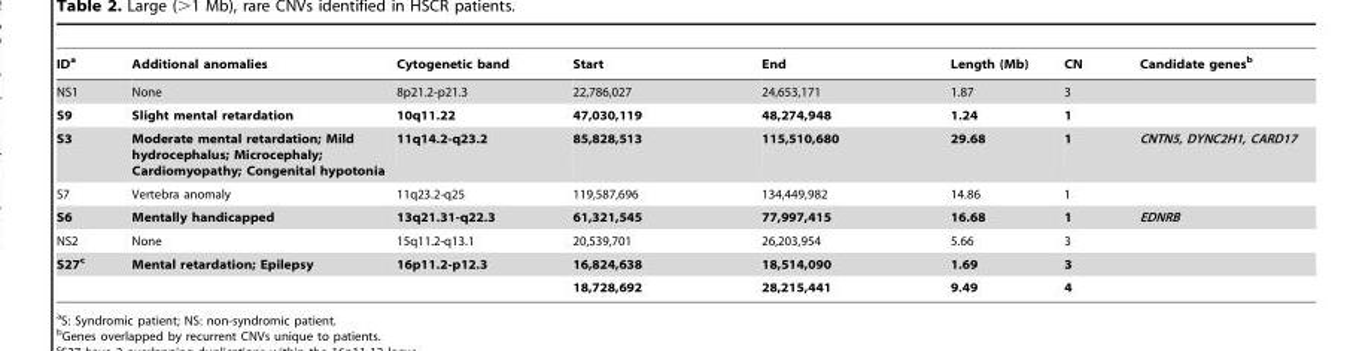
<table><thead><tr><td>ID<sup>a</sup></td><td>Additional anomalies</td><td>Cytogenetic band</td><td>Start</td><td>End</td><td>Length (Mb)</td><td>CN</td><td>Candidate genes<sup>b</sup></td></tr></thead><tbody><tr><td>NS1</td><td>None</td><td>8p21.2-p21.3</td><td>22,786,027</td><td>24,653,171</td><td>1.87</td><td>3</td><td></td></tr><tr><td>S9</td><td>Slight mental retardation</td><td>10q11.22</td><td>47,030,119</td><td>48,274,948</td><td>1.24</td><td>1</td><td></td></tr><tr><td>S3</td><td>Moderate mental retardation; Mild hydrocephalus; Microcephaly; Cardiomyopathy; Congenital hypotonia</td><td>11q14.2-q23.2</td><td>85,828,513</td><td>115,510,680</td><td>29.68</td><td>1</td><td>CNTN5, DYNC2H1, CARD17</td></tr><tr><td>S7</td><td>Vertebra anomaly</td><td>11q23.2-q25</td><td>119,587,696</td><td>134,449,982</td><td>14.86</td><td>1</td><td></td></tr><tr><td>S6</td><td>Mentally handicapped</td><td>13q21.31-q22.3</td><td>61,321,545</td><td>77,997,415</td><td>16.68</td><td>1</td><td>EDNRB</td></tr><tr><td>NS2</td><td>None</td><td>15q11.2-q13.1</td><td>20,539,701</td><td>26,203,954</td><td>5.66</td><td>3</td><td></td></tr><tr><td rowspan="2">S27c</td><td>Mental retardation; Epilepsy</td><td>16p11.2-p12.3</td><td>16,824,638</td><td>18,514,090</td><td>1.69</td><td>3</td><td></td></tr><tr><td></td><td></td><td>18,728,692</td><td>28,215,441</td><td>9.49</td><td>4</td><td></td></tr></tbody></table>